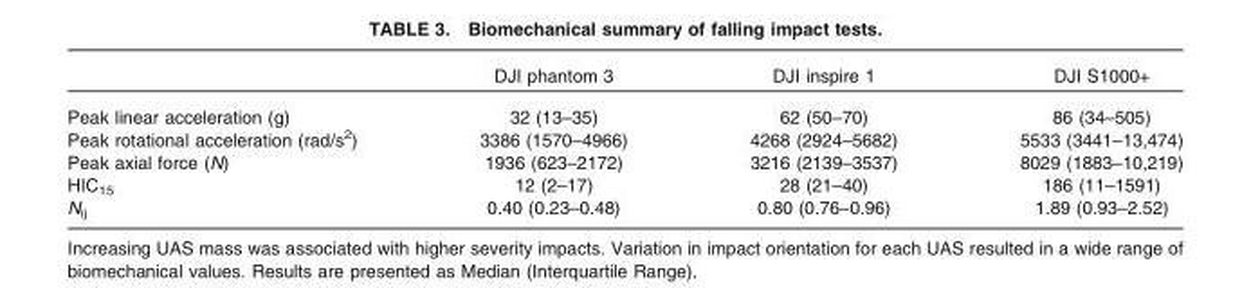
<table><thead><tr><td></td><td>DJI phantom 3</td><td>DJI inspire 1</td><td>DJI S1000+</td></tr></thead><tbody><tr><td>Peak linear acceleration (g)</td><td>32 (13–35)</td><td>62 (50–70)</td><td>86 (34–505)</td></tr><tr><td>Peak rotational acceleration (rad/s<sup>2</sup>)</td><td>3386 (1570–4966)</td><td>4268 (2924–5682)</td><td>5533 (3441–13,474)</td></tr><tr><td>Peak axial force (N)</td><td>1936 (623–2172)</td><td>3216 (2139–3537)</td><td>8029 (1883–10,219)</td></tr><tr><td>HIC<sub>15</sub></td><td>12 (2–17)</td><td>28 (21–40)</td><td>186 (11–1591)</td></tr><tr><td>N<sub>ij</sub></td><td>0.40 (0.23–0.48)</td><td>0.80 (0.76–0.96)</td><td>1.89 (0.93–2.52)</td></tr></tbody></table>